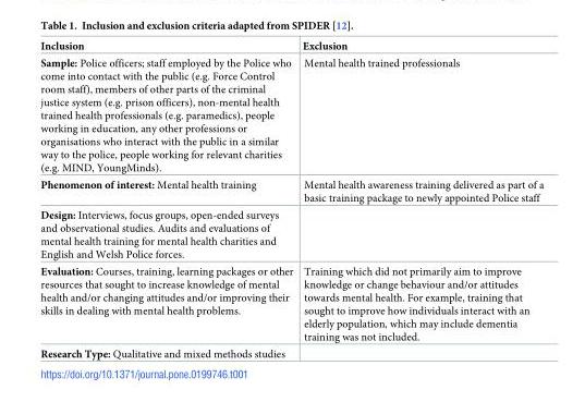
<table><thead><tr><td>Inclusion</td><td>Exclusion</td></tr></thead><tbody><tr><td>Sample: Police officers; staff employed by the Police who come into contact with the public (e.g. Force Control room staff), members of other parts of the criminal justice system (e.g. prison officers), non-mental health trained health professionals (e.g. paramedics), people working in education, any other professions or organisations who interact with the public in a similar way to the police, people working for relevant charities (e.g. MIND, YoungMinds).</td><td>Mental health trained professionals</td></tr><tr><td>Phenomenon of interest: Mental health training</td><td>Mental health awareness training delivered as part of a basic training package to newly appointed Police staff</td></tr><tr><td colspan="2">Design: Interviews, focus groups, open-ended surveys and observational studies. Audits and evaluations of mental health training for mental health charities and English and Welsh Police forces.</td></tr><tr><td>Evaluation: Courses, training, learning packages or other resources that sought to increase knowledge of mental health and/or changing attitudes and/or improving their skills in dealing with mental health problems.</td><td>Training which did not primarily aim to improve knowledge or change behaviour and/or attitudes towards mental health. For example, training that sought to improve how individuals interact with an elderly population, which may include dementia training was not included.</td></tr><tr><td>Research Type: Qualitative and mixed methods studies</td><td></td></tr></tbody></table>